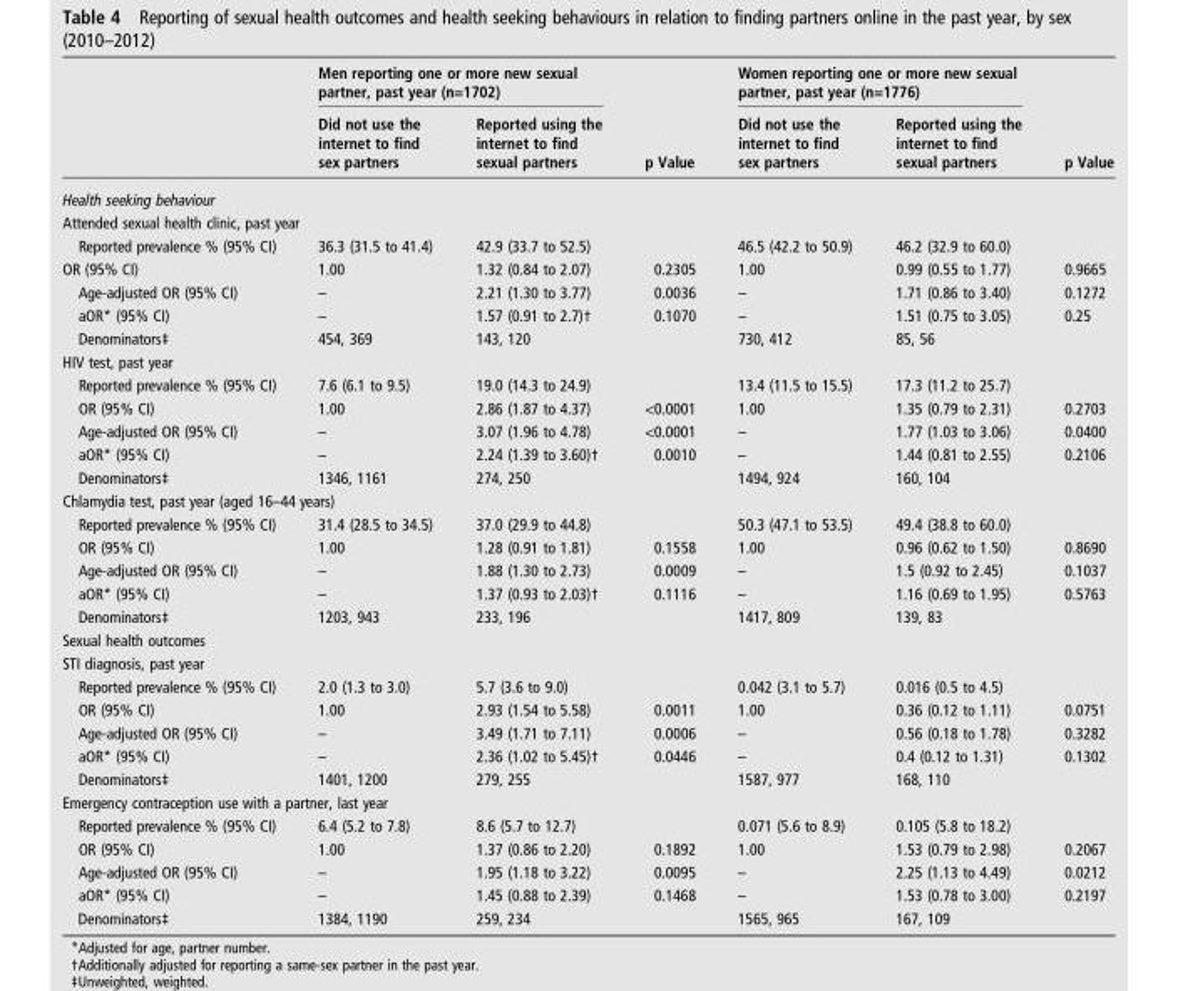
<table><thead><tr><td rowspan="2"></td><td colspan="2">Men reporting one or more new sexual partner, past year (n=1702)</td><td rowspan="2">p Value</td><td colspan="2">Women reporting one or more new sexual partner, past year (n=1776)</td><td rowspan="2">p Value</td></tr><tr><td>Did not use the internet to find sex partners</td><td>Reported using the internet to find sexual partners</td><td>Did not use the internet to find sex partners</td><td>Reported using the internet to find sexual partners</td></tr></thead><tbody><tr><td colspan="7">Health seeking behaviour</td></tr><tr><td colspan="7">Attended sexual health clinic, past year</td></tr><tr><td>Reported prevalence % (95% CI)</td><td>36.3 (31.5 to 41.4)</td><td>42.9 (33.7 to 52.5)</td><td></td><td>46.5 (42.2 to 50.9)</td><td>46.2 (32.9 to 60.0)</td><td></td></tr><tr><td>OR (95% CI)</td><td>1.00</td><td>1.32 (0.84 to 2.07)</td><td>0.2305</td><td>1.00</td><td>0.99 (0.55 to 1.77)</td><td>0.9665</td></tr><tr><td>Age-adjusted OR (95% CI)</td><td>–</td><td>2.21 (1.30 to 3.77)</td><td>0.0036</td><td>–</td><td>1.71 (0.86 to 3.40)</td><td>0.1272</td></tr><tr><td>aOR* (95% CI)</td><td>–</td><td>1.57 (0.91 to 2.7)†</td><td>0.1070</td><td>–</td><td>1.51 (0.75 to 3.05)</td><td>0.25</td></tr><tr><td>Denominators‡</td><td>454, 369</td><td>143, 120</td><td></td><td>730, 412</td><td>85, 56</td><td></td></tr><tr><td colspan="7">HIV test, past year</td></tr><tr><td>Reported prevalence % (95% CI)</td><td>7.6 (6.1 to 9.5)</td><td>19.0 (14.3 to 24.9)</td><td></td><td>13.4 (11.5 to 15.5)</td><td>17.3 (11.2 to 25.7)</td><td></td></tr><tr><td>OR (95% CI)</td><td>1.00</td><td>2.86 (1.87 to 4.37)</td><td>&lt;0.0001</td><td>1.00</td><td>1.35 (0.79 to 2.31)</td><td>0.2703</td></tr><tr><td>Age-adjusted OR (95% CI)</td><td>–</td><td>3.07 (1.96 to 4.78)</td><td>&lt;0.0001</td><td>–</td><td>1.77 (1.03 to 3.06)</td><td>0.0400</td></tr><tr><td>aOR* (95% CI)</td><td>–</td><td>2.24 (1.39 to 3.60)†</td><td>0.0010</td><td>–</td><td>1.44 (0.81 to 2.55)</td><td>0.2106</td></tr><tr><td>Denominators‡</td><td>1346, 1161</td><td>274, 250</td><td></td><td>1494, 924</td><td>160, 104</td><td></td></tr><tr><td colspan="7">Chlamydia test, past year (aged 16–44 years)</td></tr><tr><td>Reported prevalence % (95% CI)</td><td>31.4 (28.5 to 34.5)</td><td>37.0 (29.9 to 44.8)</td><td></td><td>50.3 (47.1 to 53.5)</td><td>49.4 (38.8 to 60.0)</td><td></td></tr><tr><td>OR (95% CI)</td><td>1.00</td><td>1.28 (0.91 to 1.81)</td><td>0.1558</td><td>1.00</td><td>0.96 (0.62 to 1.50)</td><td>0.8690</td></tr><tr><td>Age-adjusted OR (95% CI)</td><td>–</td><td>1.88 (1.30 to 2.73)</td><td>0.0009</td><td>–</td><td>1.5 (0.92 to 2.45)</td><td>0.1037</td></tr><tr><td>aOR* (95% CI)</td><td>–</td><td>1.37 (0.93 to 2.03)†</td><td>0.1116</td><td>–</td><td>1.16 (0.69 to 1.95)</td><td>0.5763</td></tr><tr><td>Denominators‡</td><td>1203, 943</td><td>233, 196</td><td></td><td>1417, 809</td><td>139, 83</td><td></td></tr><tr><td colspan="7">Sexual health outcomes</td></tr><tr><td colspan="7">STI diagnosis, past year</td></tr><tr><td>Reported prevalence % (95% CI)</td><td>2.0 (1.3 to 3.0)</td><td>5.7 (3.6 to 9.0)</td><td></td><td>0.042 (3.1 to 5.7)</td><td>0.016 (0.5 to 4.5)</td><td></td></tr><tr><td>OR (95% CI)</td><td>1.00</td><td>2.93 (1.54 to 5.58)</td><td>0.0011</td><td>1.00</td><td>0.36 (0.12 to 1.11)</td><td>0.0751</td></tr><tr><td>Age-adjusted OR (95% CI)</td><td>–</td><td>3.49 (1.71 to 7.11)</td><td>0.0006</td><td>–</td><td>0.56 (0.18 to 1.78)</td><td>0.3282</td></tr><tr><td>aOR* (95% CI)</td><td>–</td><td>2.36 (1.02 to 5.45)†</td><td>0.0446</td><td>–</td><td>0.4 (0.12 to 1.31)</td><td>0.1302</td></tr><tr><td>Denominators‡</td><td>1401, 1200</td><td>279, 255</td><td></td><td>1587, 977</td><td>168, 110</td><td></td></tr><tr><td colspan="7">Emergency contraception use with a partner, last year</td></tr><tr><td>Reported prevalence % (95% CI)</td><td>6.4 (5.2 to 7.8)</td><td>8.6 (5.7 to 12.7)</td><td></td><td>0.071 (5.6 to 8.9)</td><td>0.105 (5.8 to 18.2)</td><td></td></tr><tr><td>OR (95% CI)</td><td>1.00</td><td>1.37 (0.86 to 2.20)</td><td>0.1892</td><td>1.00</td><td>1.53 (0.79 to 2.98)</td><td>0.2067</td></tr><tr><td>Age-adjusted OR (95% CI)</td><td>–</td><td>1.95 (1.18 to 3.22)</td><td>0.0095</td><td>–</td><td>2.25 (1.13 to 4.49)</td><td>0.0212</td></tr><tr><td>aOR* (95% CI)</td><td>–</td><td>1.45 (0.88 to 2.39)</td><td>0.1468</td><td>–</td><td>1.53 (0.78 to 3.00)</td><td>0.2197</td></tr><tr><td>Denominators‡</td><td>1384, 1190</td><td>259, 234</td><td></td><td>1565, 965</td><td>167, 109</td><td></td></tr></tbody></table>